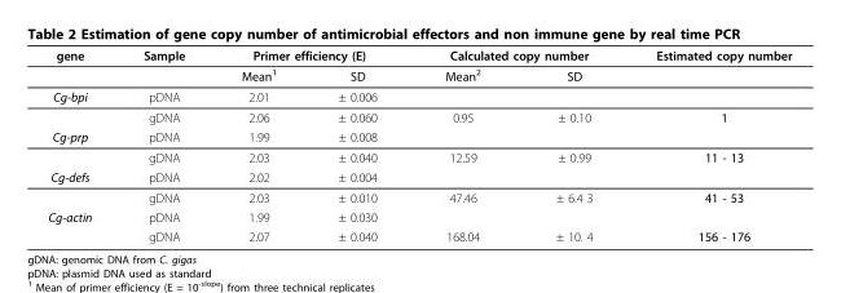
<table><thead><tr><td rowspan="2">gene</td><td rowspan="2">Sample</td><td colspan="2">Primer efficiency (E)</td><td colspan="2">Calculated copy number</td><td rowspan="2">Estimated copy number</td></tr><tr><td>Mean<sup>1</sup></td><td>SD</td><td>Mean<sup>2</sup></td><td>SD</td></tr></thead><tbody><tr><td rowspan="2">Cg-bpi</td><td>pDNA</td><td>2.01</td><td>± 0.006</td><td></td><td></td><td></td></tr><tr><td>gDNA</td><td>2.06</td><td>± 0.060</td><td>0.95</td><td>± 0.10</td><td>1</td></tr><tr><td rowspan="2">Cg-prp</td><td>pDNA</td><td>1.99</td><td>± 0.008</td><td></td><td></td><td></td></tr><tr><td>gDNA</td><td>2.03</td><td>± 0.040</td><td>12.59</td><td>± 0.99</td><td>11 - 13</td></tr><tr><td rowspan="2">Cg-defs</td><td>pDNA</td><td>2.02</td><td>± 0.004</td><td></td><td></td><td></td></tr><tr><td>gDNA</td><td>2.03</td><td>± 0.010</td><td>47.46</td><td>± 6.4 3</td><td>41 - 53</td></tr><tr><td rowspan="2">Cg-actin</td><td>pDNA</td><td>1.99</td><td>± 0.030</td><td></td><td></td><td></td></tr><tr><td>gDNA</td><td>2.07</td><td>± 0.040</td><td>168.04</td><td>± 10. 4</td><td>156 - 176</td></tr></tbody></table>